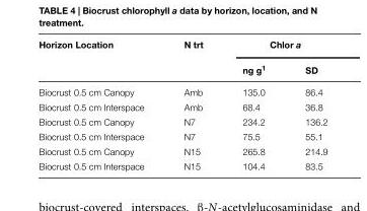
<table><thead><tr><td rowspan="2">Horizon Location</td><td rowspan="2">N trt</td><td colspan="2">Chlor a</td></tr><tr><td>ng g<sup>1</sup></td><td>SD</td></tr></thead><tbody><tr><td>Biocrust 0.5 cm Canopy</td><td>Amb</td><td>135.0</td><td>86.4</td></tr><tr><td>Biocrust 0.5 cm Interspace</td><td>Amb</td><td>68.4</td><td>36.8</td></tr><tr><td>Biocrust 0.5 cm Canopy</td><td>N7</td><td>234.2</td><td>136.2</td></tr><tr><td>Biocrust 0.5 cm Interspace</td><td>N7</td><td>75.5</td><td>55.1</td></tr><tr><td>Biocrust 0.5 cm Canopy</td><td>N15</td><td>265.8</td><td>214.9</td></tr><tr><td>Biocrust 0.5 cm Interspace</td><td>N15</td><td>104.4</td><td>83.5</td></tr></tbody></table>